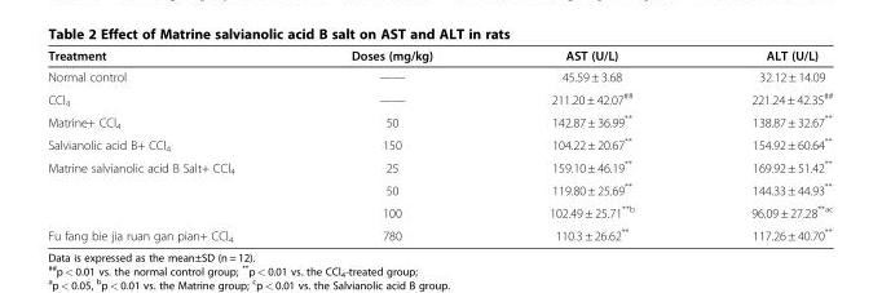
<table><thead><tr><td>Treatment</td><td>Doses (mg/kg)</td><td>AST (U/L)</td><td>ALT (U/L)</td></tr></thead><tbody><tr><td>Normal control</td><td>——</td><td>45.59 ± 3.68</td><td>32.12 ± 14.09</td></tr><tr><td>CCl<sub>4</sub></td><td>——</td><td>211.20 ± 42.07<sup>##</sup></td><td>221.24 ± 42.35<sup>##</sup></td></tr><tr><td>Matrine+ CCl<sub>4</sub></td><td>50</td><td>142.87 ± 36.99**</td><td>138.87 ± 32.67**</td></tr><tr><td>Salvianolic acid B+ CCl<sub>4</sub></td><td>150</td><td>104.22 ± 20.67**</td><td>154.92 ± 60.64**</td></tr><tr><td rowspan="3">Matrine salvianolic acid B Salt+ CCl<sub>4</sub></td><td>25</td><td>159.10 ± 46.19**</td><td>169.92 ± 51.42**</td></tr><tr><td>50</td><td>119.80 ± 25.69**</td><td>144.33 ± 44.93**</td></tr><tr><td>100</td><td>102.49 ± 25.71<sup>**b</sup></td><td>96.09 ± 27.28<sup>**ac</sup></td></tr><tr><td>Fu fang bie jia ruan gan pian+ CCl<sub>4</sub></td><td>780</td><td>110.3 ± 26.62**</td><td>117.26 ± 40.70**</td></tr></tbody></table>